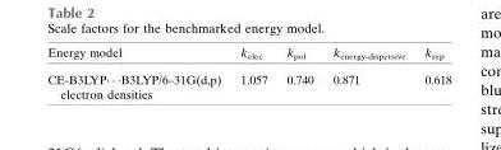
<table><thead><tr><td>Energy model</td><td>k<sub>elec</sub></td><td>k<sub>pol</sub></td><td>k<sub>energy-dispersive</sub></td><td>k<sub>rep</sub></td></tr></thead><tbody><tr><td>CE-B3LYP� � �B3LYP/6–31G(d,p) electron densities</td><td>1.057</td><td>0.740</td><td>0.871</td><td>0.618</td></tr></tbody></table>